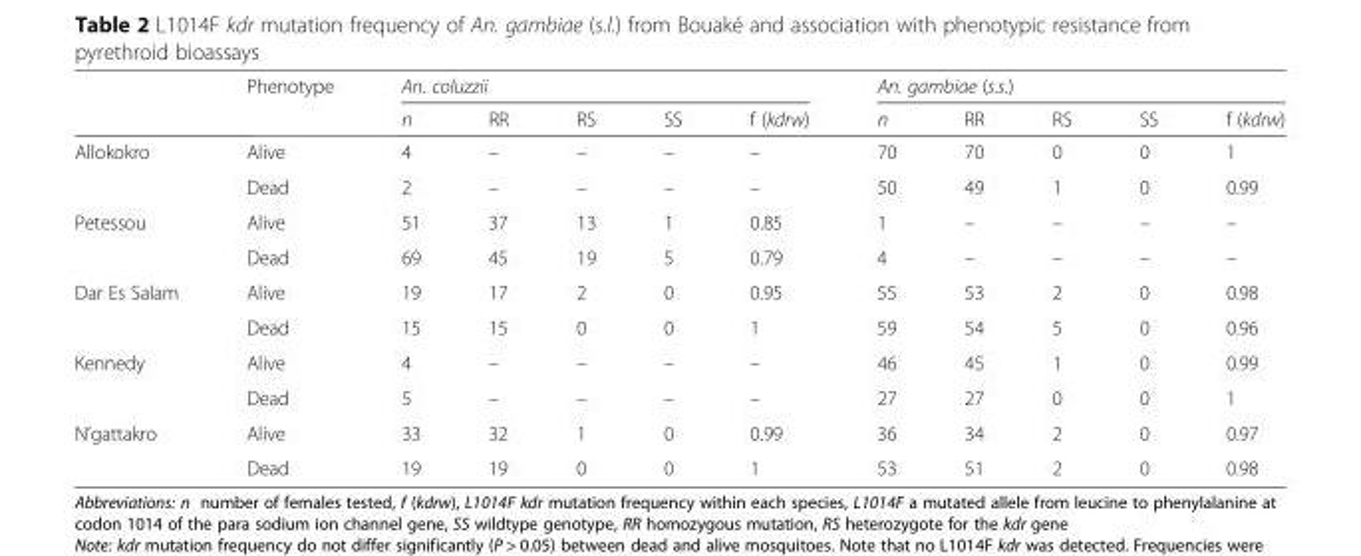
<table><thead><tr><td rowspan="2"></td><td rowspan="2">Phenotype</td><td colspan="5">An. coluzzii</td><td colspan="5">An. gambiae (s.s.)</td></tr><tr><td>n</td><td>RR</td><td>RS</td><td>SS</td><td>f (kdrw)</td><td>n</td><td>RR</td><td>RS</td><td>SS</td><td>f (kdrw)</td></tr></thead><tbody><tr><td rowspan="2">Allokokro</td><td>Alive</td><td>4</td><td>–</td><td>–</td><td>–</td><td>–</td><td>70</td><td>70</td><td>0</td><td>0</td><td>1</td></tr><tr><td>Dead</td><td>2</td><td>–</td><td>–</td><td>–</td><td>–</td><td>50</td><td>49</td><td>1</td><td>0</td><td>0.99</td></tr><tr><td rowspan="2">Petessou</td><td>Alive</td><td>51</td><td>37</td><td>13</td><td>1</td><td>0.85</td><td>1</td><td>–</td><td>–</td><td>–</td><td>–</td></tr><tr><td>Dead</td><td>69</td><td>45</td><td>19</td><td>5</td><td>0.79</td><td>4</td><td>–</td><td>–</td><td>–</td><td>–</td></tr><tr><td rowspan="2">Dar Es Salam</td><td>Alive</td><td>19</td><td>17</td><td>2</td><td>0</td><td>0.95</td><td>55</td><td>53</td><td>2</td><td>0</td><td>0.98</td></tr><tr><td>Dead</td><td>15</td><td>15</td><td>0</td><td>0</td><td>1</td><td>59</td><td>54</td><td>5</td><td>0</td><td>0.96</td></tr><tr><td rowspan="2">Kennedy</td><td>Alive</td><td>4</td><td>–</td><td>–</td><td>–</td><td>–</td><td>46</td><td>45</td><td>1</td><td>0</td><td>0.99</td></tr><tr><td>Dead</td><td>5</td><td>–</td><td>–</td><td>–</td><td>–</td><td>27</td><td>27</td><td>0</td><td>0</td><td>1</td></tr><tr><td rowspan="2">N’gattakro</td><td>Alive</td><td>33</td><td>32</td><td>1</td><td>0</td><td>0.99</td><td>36</td><td>34</td><td>2</td><td>0</td><td>0.97</td></tr><tr><td>Dead</td><td>19</td><td>19</td><td>0</td><td>0</td><td>1</td><td>53</td><td>51</td><td>2</td><td>0</td><td>0.98</td></tr></tbody></table>